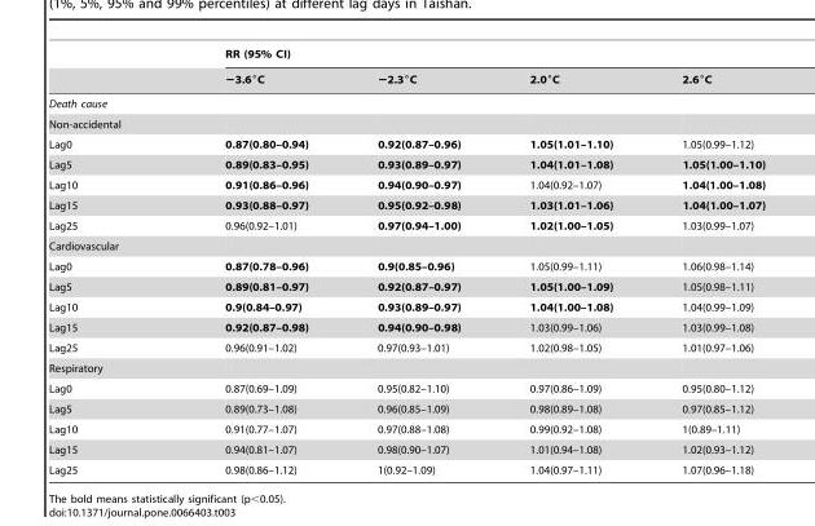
<table><thead><tr><td rowspan="2"></td><td colspan="4">RR (95% CI)</td></tr><tr><td>−3.6°C</td><td>−2.3°C</td><td>2.0°C</td><td>2.6°C</td></tr></thead><tbody><tr><td colspan="5">Death cause</td></tr><tr><td colspan="5">Non-accidental</td></tr><tr><td>Lag0</td><td>0.87(0.80–0.94)</td><td>0.92(0.87–0.96)</td><td>1.05(1.01–1.10)</td><td>1.05(0.99–1.12)</td></tr><tr><td>Lag5</td><td>0.89(0.83–0.95)</td><td>0.93(0.89–0.97)</td><td>1.04(1.01–1.08)</td><td>1.05(1.00–1.10)</td></tr><tr><td>Lag10</td><td>0.91(0.86–0.96)</td><td>0.94(0.90–0.97)</td><td>1.04(0.92–1.07)</td><td>1.04(1.00–1.08)</td></tr><tr><td>Lag15</td><td>0.93(0.88–0.97)</td><td>0.95(0.92–0.98)</td><td>1.03(1.01–1.06)</td><td>1.04(1.00–1.07)</td></tr><tr><td>Lag25</td><td>0.96(0.92–1.01)</td><td>0.97(0.94–1.00)</td><td>1.02(1.00–1.05)</td><td>1.03(0.99–1.07)</td></tr><tr><td colspan="5">Cardiovascular</td></tr><tr><td>Lag0</td><td>0.87(0.78–0.96)</td><td>0.9(0.85–0.96)</td><td>1.05(0.99–1.11)</td><td>1.06(0.98–1.14)</td></tr><tr><td>Lag5</td><td>0.89(0.81–0.97)</td><td>0.92(0.87–0.97)</td><td>1.05(1.00–1.09)</td><td>1.05(0.98–1.11)</td></tr><tr><td>Lag10</td><td>0.9(0.84–0.97)</td><td>0.93(0.89–0.97)</td><td>1.04(1.00–1.08)</td><td>1.04(0.99–1.09)</td></tr><tr><td>Lag15</td><td>0.92(0.87–0.98)</td><td>0.94(0.90–0.98)</td><td>1.03(0.99–1.06)</td><td>1.03(0.99–1.08)</td></tr><tr><td>Lag25</td><td>0.96(0.91–1.02)</td><td>0.97(0.93–1.01)</td><td>1.02(0.98–1.05)</td><td>1.01(0.97–1.06)</td></tr><tr><td colspan="5">Respiratory</td></tr><tr><td>Lag0</td><td>0.87(0.69–1.09)</td><td>0.95(0.82–1.10)</td><td>0.97(0.86–1.09)</td><td>0.95(0.80–1.12)</td></tr><tr><td>Lag5</td><td>0.89(0.73–1.08)</td><td>0.96(0.85–1.09)</td><td>0.98(0.89–1.08)</td><td>0.97(0.85–1.12)</td></tr><tr><td>Lag10</td><td>0.91(0.77–1.07)</td><td>0.97(0.88–1.08)</td><td>0.99(0.92–1.08)</td><td>1(0.89–1.11)</td></tr><tr><td>Lag15</td><td>0.94(0.81–1.07)</td><td>0.98(0.90–1.07)</td><td>1.01(0.94–1.08)</td><td>1.02(0.93–1.12)</td></tr><tr><td>Lag25</td><td>0.98(0.86–1.12)</td><td>1(0.92–1.09)</td><td>1.04(0.97–1.11)</td><td>1.07(0.96–1.18)</td></tr></tbody></table>